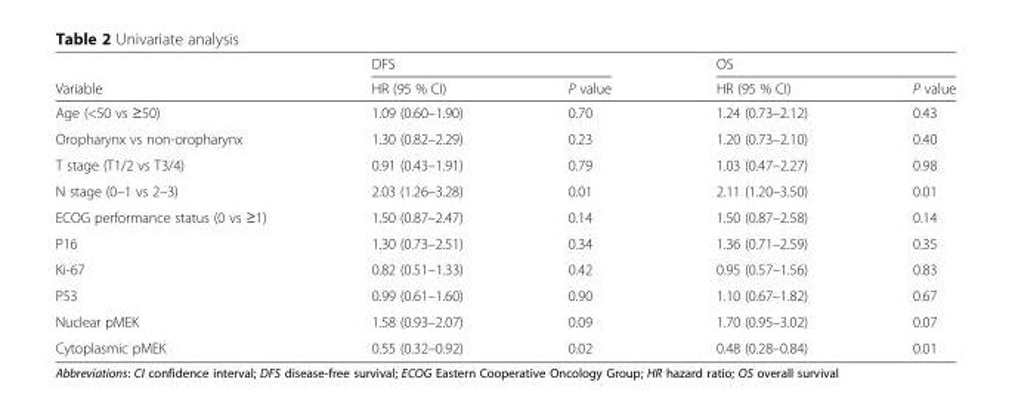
<table><thead><tr><td rowspan="2">Variable</td><td colspan="2">DFS</td><td colspan="2">OS</td></tr><tr><td>HR (95 % CI)</td><td>P value</td><td>HR (95 % CI)</td><td>P value</td></tr></thead><tbody><tr><td>Age (&lt;50 vs ≥50)</td><td>1.09 (0.60–1.90)</td><td>0.70</td><td>1.24 (0.73–2.12)</td><td>0.43</td></tr><tr><td>Oropharynx vs non-oropharynx</td><td>1.30 (0.82–2.29)</td><td>0.23</td><td>1.20 (0.73–2.10)</td><td>0.40</td></tr><tr><td>T stage (T1/2 vs T3/4)</td><td>0.91 (0.43–1.91)</td><td>0.79</td><td>1.03 (0.47–2.27)</td><td>0.98</td></tr><tr><td>N stage (0–1 vs 2–3)</td><td>2.03 (1.26–3.28)</td><td>0.01</td><td>2.11 (1.20–3.50)</td><td>0.01</td></tr><tr><td>ECOG performance status (0 vs ≥1)</td><td>1.50 (0.87–2.47)</td><td>0.14</td><td>1.50 (0.87–2.58)</td><td>0.14</td></tr><tr><td>P16</td><td>1.30 (0.73–2.51)</td><td>0.34</td><td>1.36 (0.71–2.59)</td><td>0.35</td></tr><tr><td>Ki-67</td><td>0.82 (0.51–1.33)</td><td>0.42</td><td>0.95 (0.57–1.56)</td><td>0.83</td></tr><tr><td>P53</td><td>0.99 (0.61–1.60)</td><td>0.90</td><td>1.10 (0.67–1.82)</td><td>0.67</td></tr><tr><td>Nuclear pMEK</td><td>1.58 (0.93–2.07)</td><td>0.09</td><td>1.70 (0.95–3.02)</td><td>0.07</td></tr><tr><td>Cytoplasmic pMEK</td><td>0.55 (0.32–0.92)</td><td>0.02</td><td>0.48 (0.28–0.84)</td><td>0.01</td></tr></tbody></table>